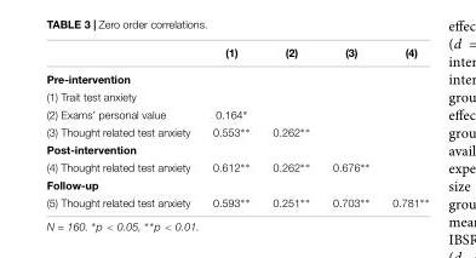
<table><thead><tr><td></td><td>(1)</td><td>(2)</td><td>(3)</td><td>(4)</td></tr></thead><tbody><tr><td colspan="5">Pre-intervention</td></tr><tr><td colspan="5">(1) Trait test anxiety</td></tr><tr><td>(2) Exams’ personal value</td><td>0.164∗</td><td></td><td></td><td></td></tr><tr><td>(3) Thought related test anxiety</td><td>0.553∗∗</td><td>0.262∗∗</td><td></td><td></td></tr><tr><td colspan="5">Post-intervention</td></tr><tr><td>(4) Thought related test anxiety</td><td>0.612∗∗</td><td>0.262∗∗</td><td>0.676∗∗</td><td></td></tr><tr><td colspan="5">Follow-up</td></tr><tr><td>(5) Thought related test anxiety</td><td>0.593∗∗</td><td>0.251∗∗</td><td>0.703∗∗</td><td>0.781∗∗</td></tr></tbody></table>